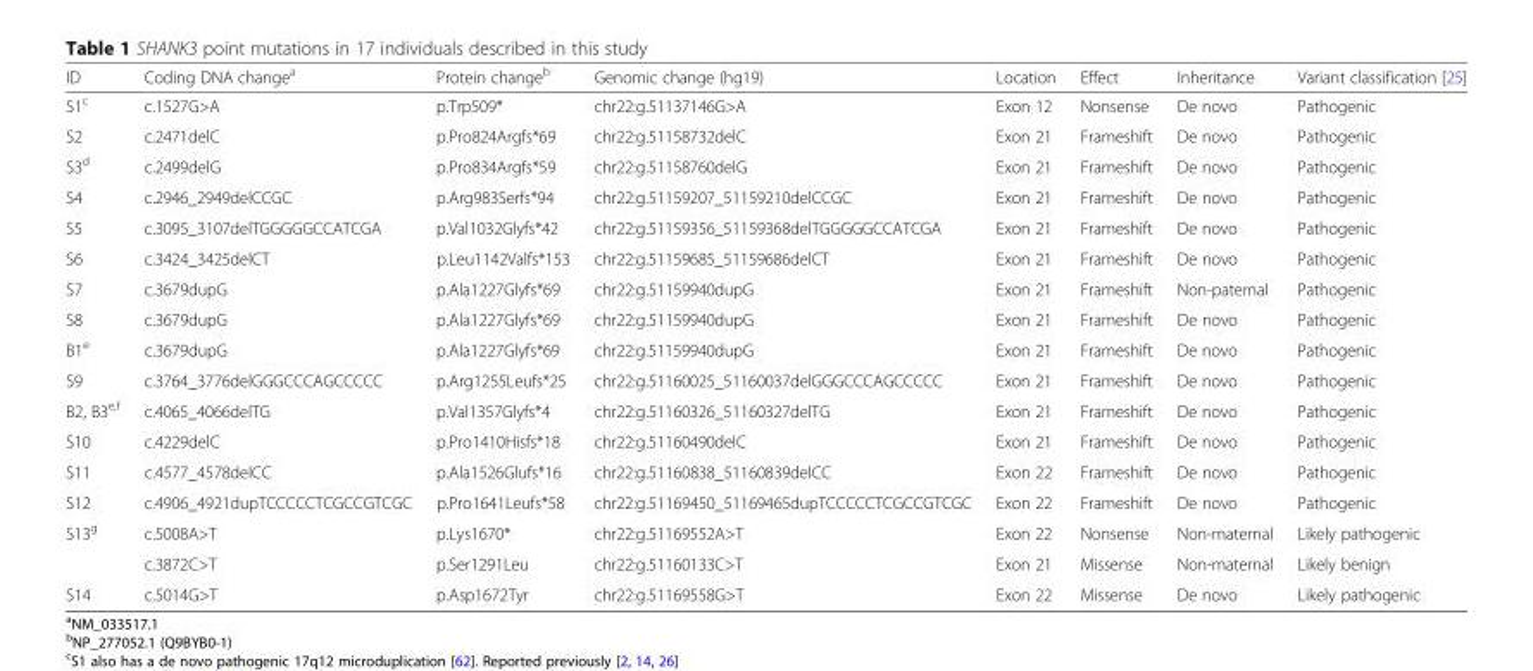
<table><thead><tr><td>ID</td><td>Coding DNA change<sup>a</sup></td><td>Protein change<sup>b</sup></td><td>Genomic change (hg19)</td><td>Location</td><td>Effect</td><td>Inheritance</td><td>Variant classification [25]</td></tr></thead><tbody><tr><td>S1<sup>c</sup></td><td>c.1527G&gt;A</td><td>p.Trp509*</td><td>chr22:g.51137146G&gt;A</td><td>Exon 12</td><td>Nonsense</td><td>De novo</td><td>Pathogenic</td></tr><tr><td>S2</td><td>c.2471delC</td><td>p.Pro824Argfs*69</td><td>chr22:g.51158732delC</td><td>Exon 21</td><td>Frameshift</td><td>De novo</td><td>Pathogenic</td></tr><tr><td>S3<sup>d</sup></td><td>c.2499delG</td><td>p.Pro834Argfs*59</td><td>chr22:g.51158760delG</td><td>Exon 21</td><td>Frameshift</td><td>De novo</td><td>Pathogenic</td></tr><tr><td>S4</td><td>c.2946_2949delCCGC</td><td>p.Arg983Serfs*94</td><td>chr22:g.51159207_51159210delCCGC</td><td>Exon 21</td><td>Frameshift</td><td>De novo</td><td>Pathogenic</td></tr><tr><td>S5</td><td>c.3095_3107delTGGGGGCCATCGA</td><td>p.Val1032Glyfs*42</td><td>chr22:g.51159356_51159368delTGGGGGCCATCGA</td><td>Exon 21</td><td>Frameshift</td><td>De novo</td><td>Pathogenic</td></tr><tr><td>S6</td><td>c.3424_3425delCT</td><td>p.Leu1142Valfs*153</td><td>chr22:g.51159685_51159686delCT</td><td>Exon 21</td><td>Frameshift</td><td>De novo</td><td>Pathogenic</td></tr><tr><td>S7</td><td>c.3679dupG</td><td>p.Ala1227Glyfs*69</td><td>chr22:g.51159940dupG</td><td>Exon 21</td><td>Frameshift</td><td>Non-paternal</td><td>Pathogenic</td></tr><tr><td>S8</td><td>c.3679dupG</td><td>p.Ala1227Glyfs*69</td><td>chr22:g.51159940dupG</td><td>Exon 21</td><td>Frameshift</td><td>De novo</td><td>Pathogenic</td></tr><tr><td>B1<sup>e</sup></td><td>c.3679dupG</td><td>p.Ala1227Glyfs*69</td><td>chr22:g.51159940dupG</td><td>Exon 21</td><td>Frameshift</td><td>De novo</td><td>Pathogenic</td></tr><tr><td>S9</td><td>c.3764_3776delGGGCCCAGCCCCC</td><td>p.Arg1255Leufs*25</td><td>chr22:g.51160025_51160037delGGGCCCAGCCCCC</td><td>Exon 21</td><td>Frameshift</td><td>De novo</td><td>Pathogenic</td></tr><tr><td>B2, B3<sup>e,f</sup></td><td>c.4065_4066delTG</td><td>p.Val1357Glyfs*4</td><td>chr22:g.51160326_51160327delTG</td><td>Exon 21</td><td>Frameshift</td><td>De novo</td><td>Pathogenic</td></tr><tr><td>S10</td><td>c.4229delC</td><td>p.Pro1410Hisfs*18</td><td>chr22:g.51160490delC</td><td>Exon 21</td><td>Frameshift</td><td>De novo</td><td>Pathogenic</td></tr><tr><td>S11</td><td>c.4577_4578delCC</td><td>p.Ala1526Glufs*16</td><td>chr22:g.51160838_51160839delCC</td><td>Exon 22</td><td>Frameshift</td><td>De novo</td><td>Pathogenic</td></tr><tr><td>S12</td><td>c.4906_4921dupTCCCCCTCGCCGTCGC</td><td>p.Pro1641Leufs*58</td><td>chr22:g.51169450_51169465dupTCCCCCTCGCCGTCGC</td><td>Exon 22</td><td>Frameshift</td><td>De novo</td><td>Pathogenic</td></tr><tr><td rowspan="2">S13<sup>g</sup></td><td>c.5008A&gt;T</td><td>p.Lys1670*</td><td>chr22:g.51169552A&gt;T</td><td>Exon 22</td><td>Nonsense</td><td>Non-maternal</td><td>Likely pathogenic</td></tr><tr><td>c.3872C&gt;T</td><td>p.Ser1291Leu</td><td>chr22:g.51160133C&gt;T</td><td>Exon 21</td><td>Missense</td><td>Non-maternal</td><td>Likely benign</td></tr><tr><td>S14</td><td>c.5014G&gt;T</td><td>p.Asp1672Tyr</td><td>chr22:g.51169558G&gt;T</td><td>Exon 22</td><td>Missense</td><td>De novo</td><td>Likely pathogenic</td></tr></tbody></table>